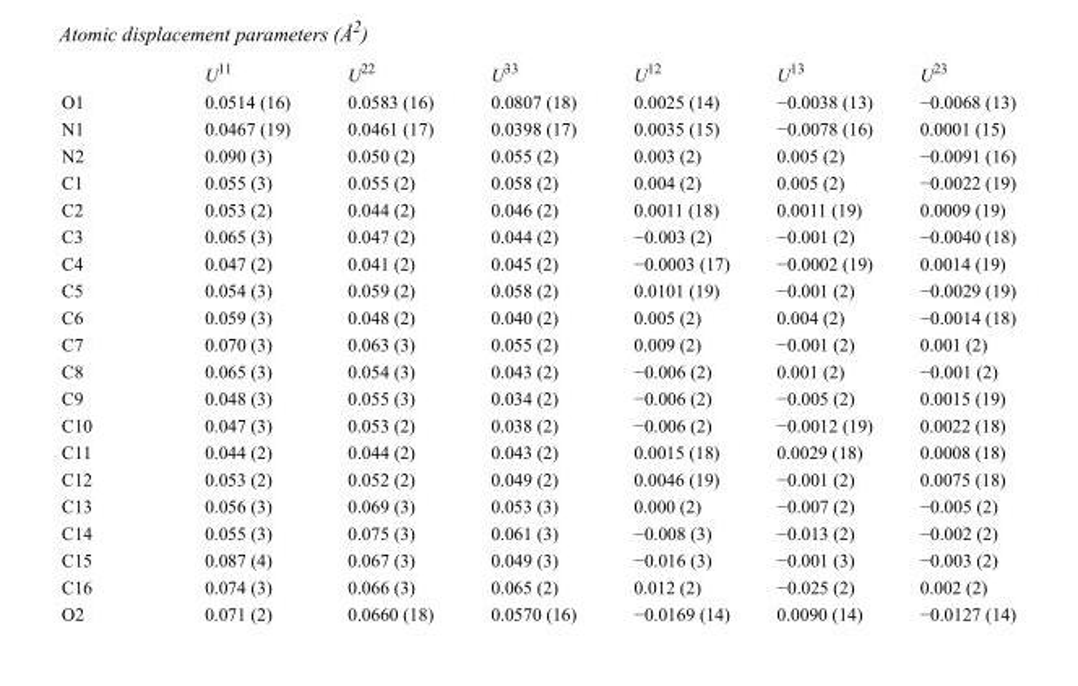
<table><thead><tr><td></td><td>U<sup>11</sup></td><td>U<sup>22</sup></td><td>U<sup>33</sup></td><td>U<sup>12</sup></td><td>U<sup>13</sup></td><td>U<sup>23</sup></td></tr></thead><tbody><tr><td>O1</td><td>0.0514 (16)</td><td>0.0583 (16)</td><td>0.0807 (18)</td><td>0.0025 (14)</td><td>−0.0038 (13)</td><td>−0.0068 (13)</td></tr><tr><td>N1</td><td>0.0467 (19)</td><td>0.0461 (17)</td><td>0.0398 (17)</td><td>0.0035 (15)</td><td>−0.0078 (16)</td><td>0.0001 (15)</td></tr><tr><td>N2</td><td>0.090 (3)</td><td>0.050 (2)</td><td>0.055 (2)</td><td>0.003 (2)</td><td>0.005 (2)</td><td>−0.0091 (16)</td></tr><tr><td>C1</td><td>0.055 (3)</td><td>0.055 (2)</td><td>0.058 (2)</td><td>0.004 (2)</td><td>0.005 (2)</td><td>−0.0022 (19)</td></tr><tr><td>C2</td><td>0.053 (2)</td><td>0.044 (2)</td><td>0.046 (2)</td><td>0.0011 (18)</td><td>0.0011 (19)</td><td>0.0009 (19)</td></tr><tr><td>C3</td><td>0.065 (3)</td><td>0.047 (2)</td><td>0.044 (2)</td><td>−0.003 (2)</td><td>−0.001 (2)</td><td>−0.0040 (18)</td></tr><tr><td>C4</td><td>0.047 (2)</td><td>0.041 (2)</td><td>0.045 (2)</td><td>−0.0003 (17)</td><td>−0.0002 (19)</td><td>0.0014 (19)</td></tr><tr><td>C5</td><td>0.054 (3)</td><td>0.059 (2)</td><td>0.058 (2)</td><td>0.0101 (19)</td><td>−0.001 (2)</td><td>−0.0029 (19)</td></tr><tr><td>C6</td><td>0.059 (3)</td><td>0.048 (2)</td><td>0.040 (2)</td><td>0.005 (2)</td><td>0.004 (2)</td><td>−0.0014 (18)</td></tr><tr><td>C7</td><td>0.070 (3)</td><td>0.063 (3)</td><td>0.055 (2)</td><td>0.009 (2)</td><td>−0.001 (2)</td><td>0.001 (2)</td></tr><tr><td>C8</td><td>0.065 (3)</td><td>0.054 (3)</td><td>0.043 (2)</td><td>−0.006 (2)</td><td>0.001 (2)</td><td>−0.001 (2)</td></tr><tr><td>C9</td><td>0.048 (3)</td><td>0.055 (3)</td><td>0.034 (2)</td><td>−0.006 (2)</td><td>−0.005 (2)</td><td>0.0015 (19)</td></tr><tr><td>C10</td><td>0.047 (3)</td><td>0.053 (2)</td><td>0.038 (2)</td><td>−0.006 (2)</td><td>−0.0012 (19)</td><td>0.0022 (18)</td></tr><tr><td>C11</td><td>0.044 (2)</td><td>0.044 (2)</td><td>0.043 (2)</td><td>0.0015 (18)</td><td>0.0029 (18)</td><td>0.0008 (18)</td></tr><tr><td>C12</td><td>0.053 (2)</td><td>0.052 (2)</td><td>0.049 (2)</td><td>0.0046 (19)</td><td>−0.001 (2)</td><td>0.0075 (18)</td></tr><tr><td>C13</td><td>0.056 (3)</td><td>0.069 (3)</td><td>0.053 (3)</td><td>0.000 (2)</td><td>−0.007 (2)</td><td>−0.005 (2)</td></tr><tr><td>C14</td><td>0.055 (3)</td><td>0.075 (3)</td><td>0.061 (3)</td><td>−0.008 (3)</td><td>−0.013 (2)</td><td>−0.002 (2)</td></tr><tr><td>C15</td><td>0.087 (4)</td><td>0.067 (3)</td><td>0.049 (3)</td><td>−0.016 (3)</td><td>−0.001 (3)</td><td>−0.003 (2)</td></tr><tr><td>C16</td><td>0.074 (3)</td><td>0.066 (3)</td><td>0.065 (2)</td><td>0.012 (2)</td><td>−0.025 (2)</td><td>0.002 (2)</td></tr><tr><td>O2</td><td>0.071 (2)</td><td>0.0660 (18)</td><td>0.0570 (16)</td><td>−0.0169 (14)</td><td>0.0090 (14)</td><td>−0.0127 (14)</td></tr></tbody></table>